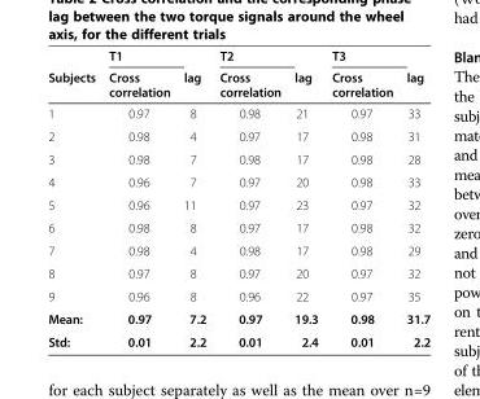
<table><thead><tr><td></td><td>T1</td><td></td><td>T2</td><td></td><td>T3</td><td></td></tr></thead><tbody><tr><td>Subjects</td><td>Cross correlation</td><td>lag</td><td>Cross correlation</td><td>lag</td><td>Cross correlation</td><td>lag</td></tr><tr><td>1</td><td>0.97</td><td>8</td><td>0.98</td><td>21</td><td>0.97</td><td>33</td></tr><tr><td>2</td><td>0.98</td><td>4</td><td>0.97</td><td>17</td><td>0.98</td><td>31</td></tr><tr><td>3</td><td>0.98</td><td>7</td><td>0.98</td><td>17</td><td>0.98</td><td>28</td></tr><tr><td>4</td><td>0.96</td><td>7</td><td>0.97</td><td>20</td><td>0.98</td><td>33</td></tr><tr><td>5</td><td>0.96</td><td>11</td><td>0.97</td><td>23</td><td>0.97</td><td>32</td></tr><tr><td>6</td><td>0.98</td><td>8</td><td>0.97</td><td>17</td><td>0.98</td><td>32</td></tr><tr><td>7</td><td>0.98</td><td>4</td><td>0.98</td><td>17</td><td>0.98</td><td>29</td></tr><tr><td>8</td><td>0.97</td><td>8</td><td>0.97</td><td>20</td><td>0.97</td><td>32</td></tr><tr><td>9</td><td>0.96</td><td>8</td><td>0.96</td><td>22</td><td>0.97</td><td>35</td></tr><tr><td>Mean:</td><td>0.97</td><td>7.2</td><td>0.97</td><td>19.3</td><td>0.98</td><td>31.7</td></tr><tr><td>Std:</td><td>0.01</td><td>2.2</td><td>0.01</td><td>2.4</td><td>0.01</td><td>2.2</td></tr></tbody></table>